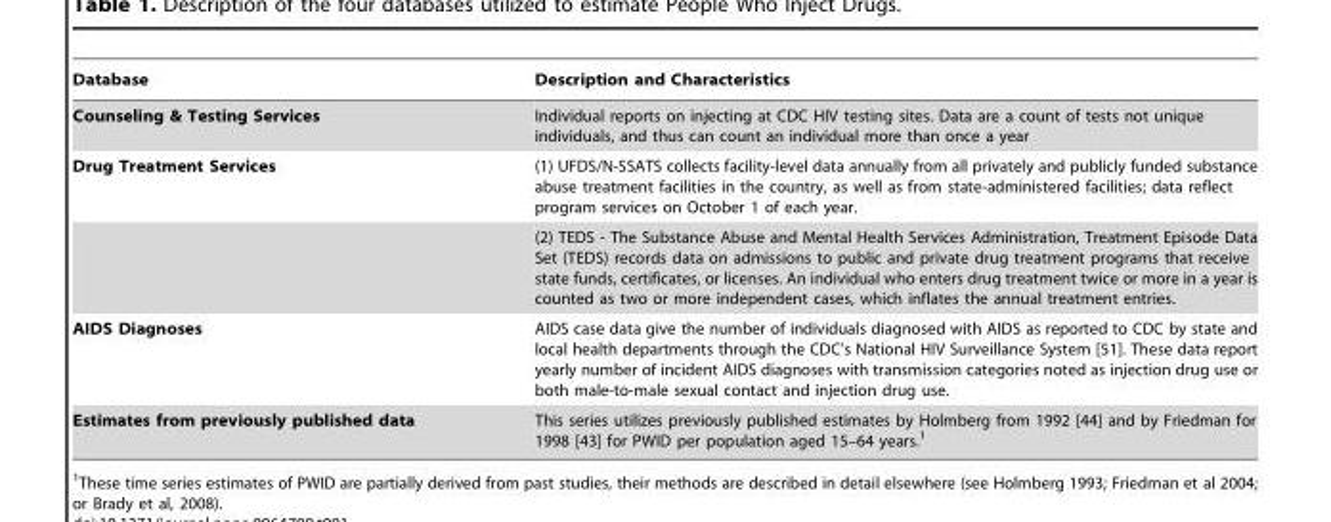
<table><thead><tr><td>Database</td><td>Description and Characteristics</td></tr></thead><tbody><tr><td>Counseling &amp; Testing Services</td><td>Individual reports on injecting at CDC HIV testing sites. Data are a count of tests not unique individuals, and thus can count an individual more than once a year</td></tr><tr><td rowspan="2">Drug Treatment Services</td><td>(1) UFDS/N-SSATS collects facility-level data annually from all privately and publicly funded substance abuse treatment facilities in the country, as well as from state-administered facilities; data reflect program services on October 1 of each year.</td></tr><tr><td>(2) TEDS - The Substance Abuse and Mental Health Services Administration, Treatment Episode Data Set (TEDS) records data on admissions to public and private drug treatment programs that receive state funds, certificates, or licenses. An individual who enters drug treatment twice or more in a year is counted as two or more independent cases, which inflates the annual treatment entries.</td></tr><tr><td>AIDS Diagnoses</td><td>AIDS case data give the number of individuals diagnosed with AIDS as reported to CDC by state and local health departments through the CDC’s National HIV Surveillance System [51]. These data report yearly number of incident AIDS diagnoses with transmission categories noted as injection drug use or both male-to-male sexual contact and injection drug use.</td></tr><tr><td>Estimates from previously published data</td><td>This series utilizes previously published estimates by Holmberg from 1992 [44] and by Friedman for 1998 [43] for PWID per population aged 15–64 years.1</td></tr></tbody></table>